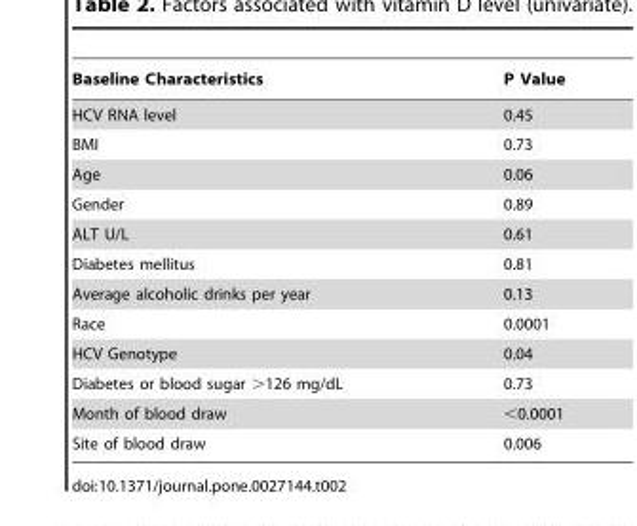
<table><thead><tr><td>Baseline Characteristics</td><td>P Value</td></tr></thead><tbody><tr><td>HCV RNA level</td><td>0.45</td></tr><tr><td>BMI</td><td>0.73</td></tr><tr><td>Age</td><td>0.06</td></tr><tr><td>Gender</td><td>0.89</td></tr><tr><td>ALT U/L</td><td>0.61</td></tr><tr><td>Diabetes mellitus</td><td>0.81</td></tr><tr><td>Average alcoholic drinks per year</td><td>0.13</td></tr><tr><td>Race</td><td>0.0001</td></tr><tr><td>HCV Genotype</td><td>0.04</td></tr><tr><td>Diabetes or blood sugar &gt;126 mg/dL</td><td>0.73</td></tr><tr><td>Month of blood draw</td><td>&lt;0.0001</td></tr><tr><td>Site of blood draw</td><td>0.006</td></tr></tbody></table>